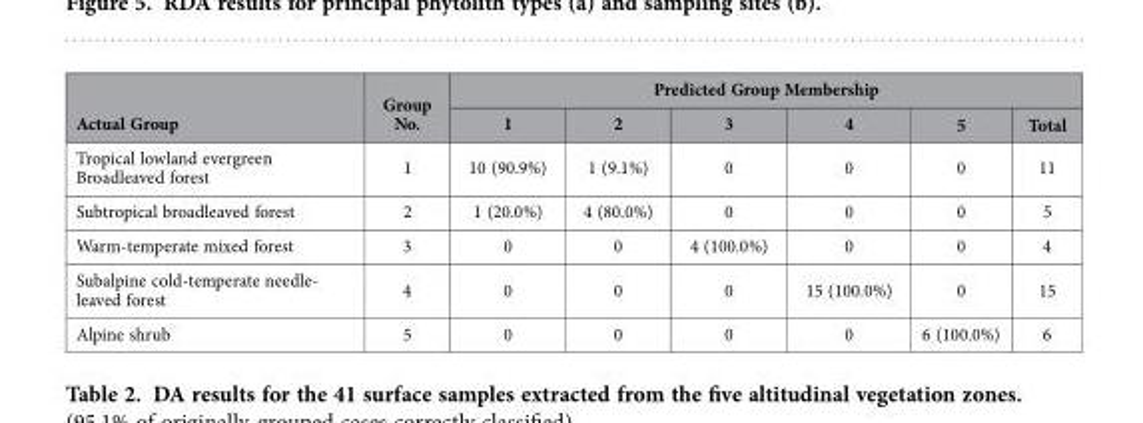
<table><thead><tr><td rowspan="2">Actual Group</td><td rowspan="2">Group No.</td><td colspan="6">Predicted Group Membership</td></tr><tr><td>1</td><td>2</td><td>3</td><td>4</td><td>5</td><td>Total</td></tr></thead><tbody><tr><td>Tropical lowland evergreen Broadleaved forest</td><td>1</td><td>10 (90.9%)</td><td>1 (9.1%)</td><td>0</td><td>0</td><td>0</td><td>11</td></tr><tr><td>Subtropical broadleaved forest</td><td>2</td><td>1 (20.0%)</td><td>4 (80.0%)</td><td>0</td><td>0</td><td>0</td><td>5</td></tr><tr><td>Warm-temperate mixed forest</td><td>3</td><td>0</td><td>0</td><td>4 (100.0%)</td><td>0</td><td>0</td><td>4</td></tr><tr><td>Subalpine cold-temperate needle- leaved forest</td><td>4</td><td>0</td><td>0</td><td>0</td><td>15 (100.0%)</td><td>0</td><td>15</td></tr><tr><td>Alpine shrub</td><td>5</td><td>0</td><td>0</td><td>0</td><td>0</td><td>6 (100.0%)</td><td>6</td></tr></tbody></table>